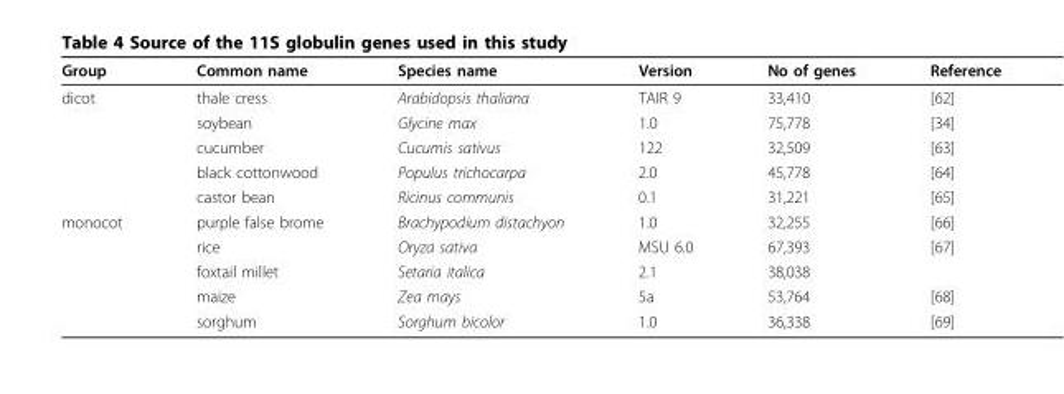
<table><thead><tr><td>Group</td><td>Common name</td><td>Species name</td><td>Version</td><td>No of genes</td><td>Reference</td></tr></thead><tbody><tr><td rowspan="5">dicot</td><td>thale cress</td><td>Arabidopsis thaliana</td><td>TAIR 9</td><td>33,410</td><td>[62]</td></tr><tr><td>soybean</td><td>Glycine max</td><td>1.0</td><td>75,778</td><td>[34]</td></tr><tr><td>cucumber</td><td>Cucumis sativus</td><td>122</td><td>32,509</td><td>[63]</td></tr><tr><td>black cottonwood</td><td>Populus trichocarpa</td><td>2.0</td><td>45,778</td><td>[64]</td></tr><tr><td>castor bean</td><td>Ricinus communis</td><td>0.1</td><td>31,221</td><td>[65]</td></tr><tr><td rowspan="5">monocot</td><td>purple false brome</td><td>Brachypodium distachyon</td><td>1.0</td><td>32,255</td><td>[66]</td></tr><tr><td>rice</td><td>Oryza sativa</td><td>MSU 6.0</td><td>67,393</td><td>[67]</td></tr><tr><td>foxtail millet</td><td>Setaria italica</td><td>2.1</td><td>38,038</td><td></td></tr><tr><td>maize</td><td>Zea mays</td><td>5a</td><td>53,764</td><td>[68]</td></tr><tr><td>sorghum</td><td>Sorghum bicolor</td><td>1.0</td><td>36,338</td><td>[69]</td></tr></tbody></table>